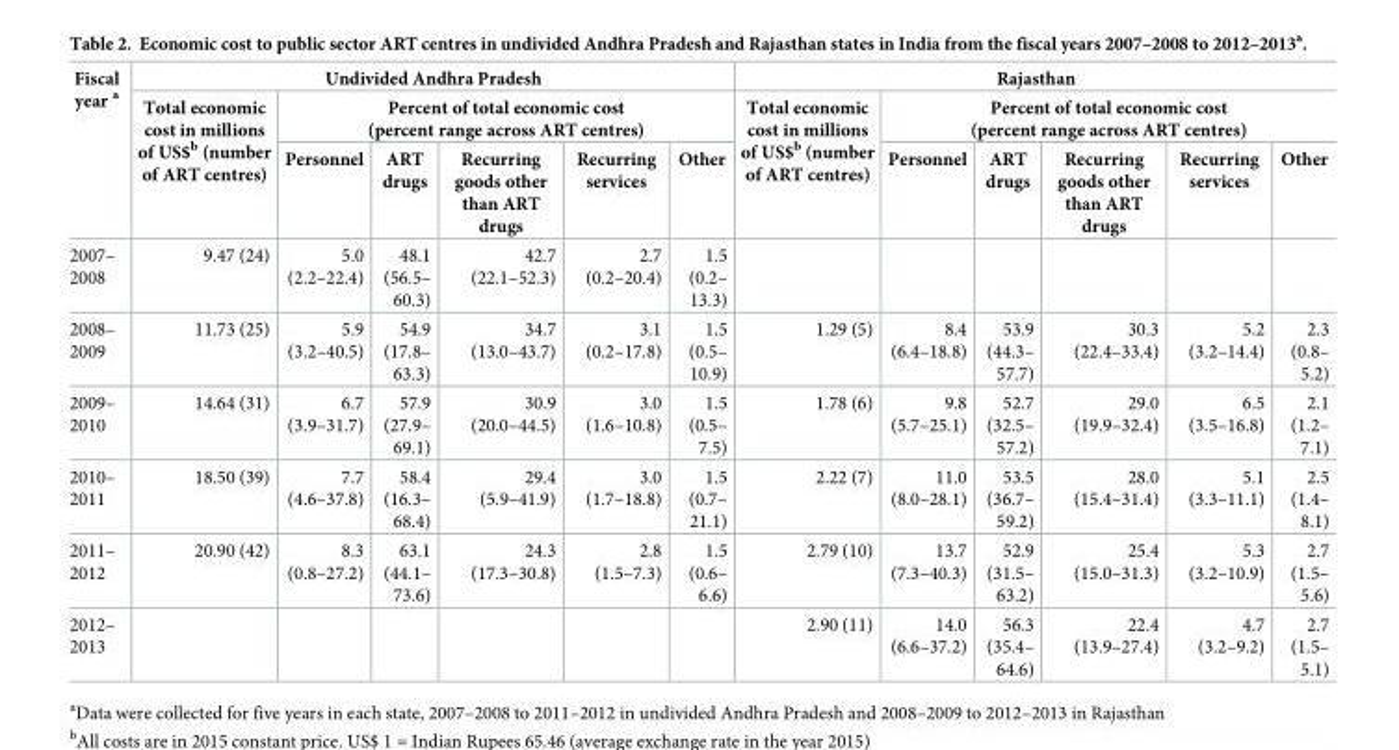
<table><thead><tr><td rowspan="3">Fiscal year <sup>a</sup></td><td colspan="6">Undivided Andhra Pradesh</td><td colspan="6">Rajasthan</td></tr><tr><td rowspan="2">Total economic cost in millions of US$<sup>b</sup> (number of ART centres)</td><td colspan="5">Percent of total economic cost (percent range across ART centres)</td><td rowspan="2">Total economic cost in millions of US$<sup>b</sup> (number of ART centres)</td><td colspan="5">Percent of total economic cost (percent range across ART centres)</td></tr><tr><td>Personnel</td><td>ART drugs</td><td>Recurring goods other than ART drugs</td><td>Recurring services</td><td>Other</td><td>Personnel</td><td>ART drugs</td><td>Recurring goods other than ART drugs</td><td>Recurring services</td><td>Other</td></tr></thead><tbody><tr><td>2007– 2008</td><td>9.47 (24)</td><td>5.0 (2.2–22.4)</td><td>48.1 (56.5– 60.3)</td><td>42.7 (22.1–52.3)</td><td>2.7 (0.2–20.4)</td><td>1.5 (0.2– 13.3)</td><td></td><td></td><td></td><td></td><td></td><td></td></tr><tr><td>2008– 2009</td><td>11.73 (25)</td><td>5.9 (3.2–40.5)</td><td>54.9 (17.8– 63.3)</td><td>34.7 (13.0–43.7)</td><td>3.1 (0.2–17.8)</td><td>1.5 (0.5– 10.9)</td><td>1.29 (5)</td><td>8.4 (6.4–18.8)</td><td>53.9 (44.3– 57.7)</td><td>30.3 (22.4–33.4)</td><td>5.2 (3.2–14.4)</td><td>2.3 (0.8– 5.2)</td></tr><tr><td>2009– 2010</td><td>14.64 (31)</td><td>6.7 (3.9–31.7)</td><td>57.9 (27.9– 69.1)</td><td>30.9 (20.0–44.5)</td><td>3.0 (1.6–10.8)</td><td>1.5 (0.5– 7.5)</td><td>1.78 (6)</td><td>9.8 (5.7–25.1)</td><td>52.7 (32.5– 57.2)</td><td>29.0 (19.9–32.4)</td><td>6.5 (3.5–16.8)</td><td>2.1 (1.2– 7.1)</td></tr><tr><td>2010– 2011</td><td>18.50 (39)</td><td>7.7 (4.6–37.8)</td><td>58.4 (16.3– 68.4)</td><td>29.4 (5.9–41.9)</td><td>3.0 (1.7–18.8)</td><td>1.5 (0.7– 21.1)</td><td>2.22 (7)</td><td>11.0 (8.0–28.1)</td><td>53.5 (36.7– 59.2)</td><td>28.0 (15.4–31.4)</td><td>5.1 (3.3–11.1)</td><td>2.5 (1.4– 8.1)</td></tr><tr><td>2011– 2012</td><td>20.90 (42)</td><td>8.3 (0.8–27.2)</td><td>63.1 (44.1– 73.6)</td><td>24.3 (17.3–30.8)</td><td>2.8 (1.5–7.3)</td><td>1.5 (0.6– 6.6)</td><td>2.79 (10)</td><td>13.7 (7.3–40.3)</td><td>52.9 (31.5– 63.2)</td><td>25.4 (15.0–31.3)</td><td>5.3 (3.2–10.9)</td><td>2.7 (1.5– 5.6)</td></tr><tr><td>2012– 2013</td><td></td><td></td><td></td><td></td><td></td><td></td><td>2.90 (11)</td><td>14.0 (6.6–37.2)</td><td>56.3 (35.4– 64.6)</td><td>22.4 (13.9–27.4)</td><td>4.7 (3.2–9.2)</td><td>2.7 (1.5– 5.1)</td></tr></tbody></table>